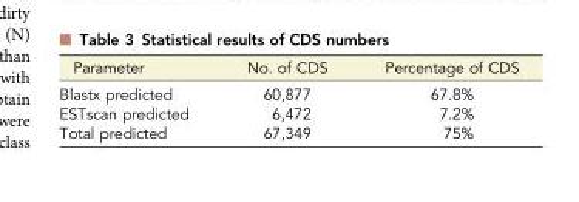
<table><thead><tr><td>Parameter</td><td>No. of CDS</td><td>Percentage of CDS</td></tr></thead><tbody><tr><td>Blastx predicted</td><td>60,877</td><td>67.8%</td></tr><tr><td>ESTscan predicted</td><td>6,472</td><td>7.2%</td></tr><tr><td>Total predicted</td><td>67,349</td><td>75%</td></tr></tbody></table>